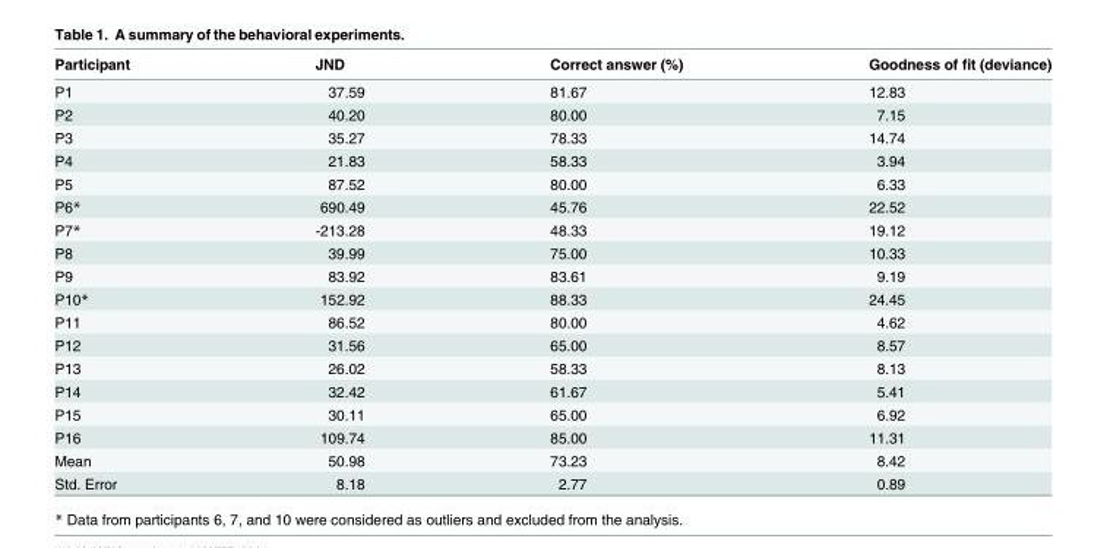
<table><thead><tr><td>Participant</td><td>JND</td><td>Correct answer (%)</td><td>Goodness of fit (deviance)</td></tr></thead><tbody><tr><td>P1</td><td>37.59</td><td>81.67</td><td>12.83</td></tr><tr><td>P2</td><td>40.20</td><td>80.00</td><td>7.15</td></tr><tr><td>P3</td><td>35.27</td><td>78.33</td><td>14.74</td></tr><tr><td>P4</td><td>21.83</td><td>58.33</td><td>3.94</td></tr><tr><td>P5</td><td>87.52</td><td>80.00</td><td>6.33</td></tr><tr><td>P6*</td><td>690.49</td><td>45.76</td><td>22.52</td></tr><tr><td>P7*</td><td>-213.28</td><td>48.33</td><td>19.12</td></tr><tr><td>P8</td><td>39.99</td><td>75.00</td><td>10.33</td></tr><tr><td>P9</td><td>83.92</td><td>83.61</td><td>9.19</td></tr><tr><td>P10*</td><td>152.92</td><td>88.33</td><td>24.45</td></tr><tr><td>P11</td><td>86.52</td><td>80.00</td><td>4.62</td></tr><tr><td>P12</td><td>31.56</td><td>65.00</td><td>8.57</td></tr><tr><td>P13</td><td>26.02</td><td>58.33</td><td>8.13</td></tr><tr><td>P14</td><td>32.42</td><td>61.67</td><td>5.41</td></tr><tr><td>P15</td><td>30.11</td><td>65.00</td><td>6.92</td></tr><tr><td>P16</td><td>109.74</td><td>85.00</td><td>11.31</td></tr><tr><td>Mean</td><td>50.98</td><td>73.23</td><td>8.42</td></tr><tr><td>Std. Error</td><td>8.18</td><td>2.77</td><td>0.89</td></tr></tbody></table>